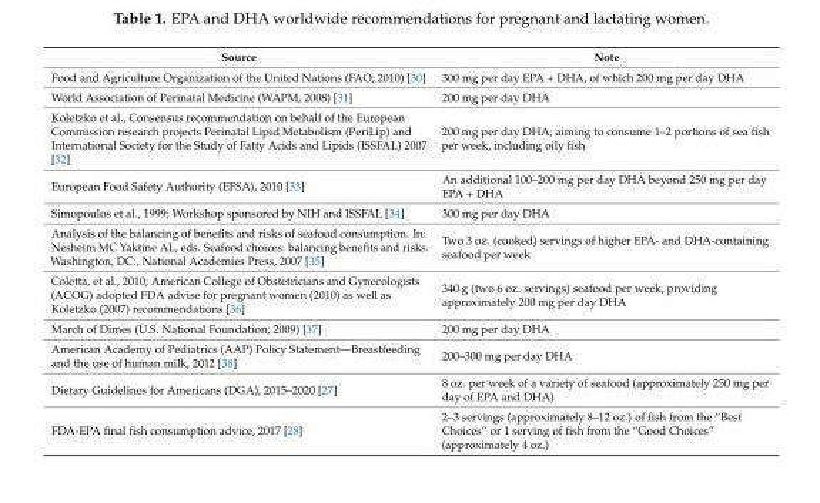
<table><thead><tr><td>Source</td><td>Note</td></tr></thead><tbody><tr><td>Food and Agriculture Organization of the United Nations (FAO; 2010) [30]</td><td>300 mg per day EPA + DHA, of which 200 mg per day DHA</td></tr><tr><td>World Association of Perinatal Medicine (WAPM, 2008) [31]</td><td>200 mg per day DHA</td></tr><tr><td>Koletzko et al., Consensus recommendation on behalf of the European Commission research projects Perinatal Lipid Metabolism (PeriLip) and International Society for the Study of Fatty Acids and Lipids (ISSFAL) 2007 [32]</td><td>200 mg per day DHA; aiming to consume 1–2 portions of sea fish per week, including oily fish</td></tr><tr><td>European Food Safety Authority (EFSA), 2010 [33]</td><td>An additional 100–200 mg per day DHA beyond 250 mg per day EPA + DHA</td></tr><tr><td>Simopoulos et al., 1999; Workshop sponsored by NIH and ISSFAL [34]</td><td>300 mg per day DHA</td></tr><tr><td>Analysis of the balancing of benefits and risks of seafood consumption. In: Nesheim MC Yaktine AL, eds. Seafood choices: balancing benefits and risks. Washington, DC:, National Academies Press, 2007 [35]</td><td>Two 3 oz. (cooked) servings of higher EPA- and DHA-containing seafood per week</td></tr><tr><td>Coletta, et al., 2010; American College of Obstetricians and Gynecologists (ACOG) adopted FDA advise for pregnant women (2010) as well as Koletzko (2007) recommendations [36]</td><td>340 g (two 6 oz. servings) seafood per week, providing approximately 200 mg per day DHA</td></tr><tr><td>March of Dimes (U.S. National Foundation; 2009) [37]</td><td>200 mg per day DHA</td></tr><tr><td>American Academy of Pediatrics (AAP) Policy Statement—Breastfeeding and the use of human milk, 2012 [38]</td><td>200–300 mg per day DHA</td></tr><tr><td>Dietary Guidelines for Americans (DGA), 2015–2020 [27]</td><td>8 oz. per week of a variety of seafood (approximately 250 mg per day of EPA and DHA)</td></tr><tr><td>FDA-EPA final fish consumption advice, 2017 [28]</td><td>2–3 servings (approximately 8–12 oz.) of fish from the “Best Choices” or 1 serving of fish from the “Good Choices” (approximately 4 oz.)</td></tr></tbody></table>